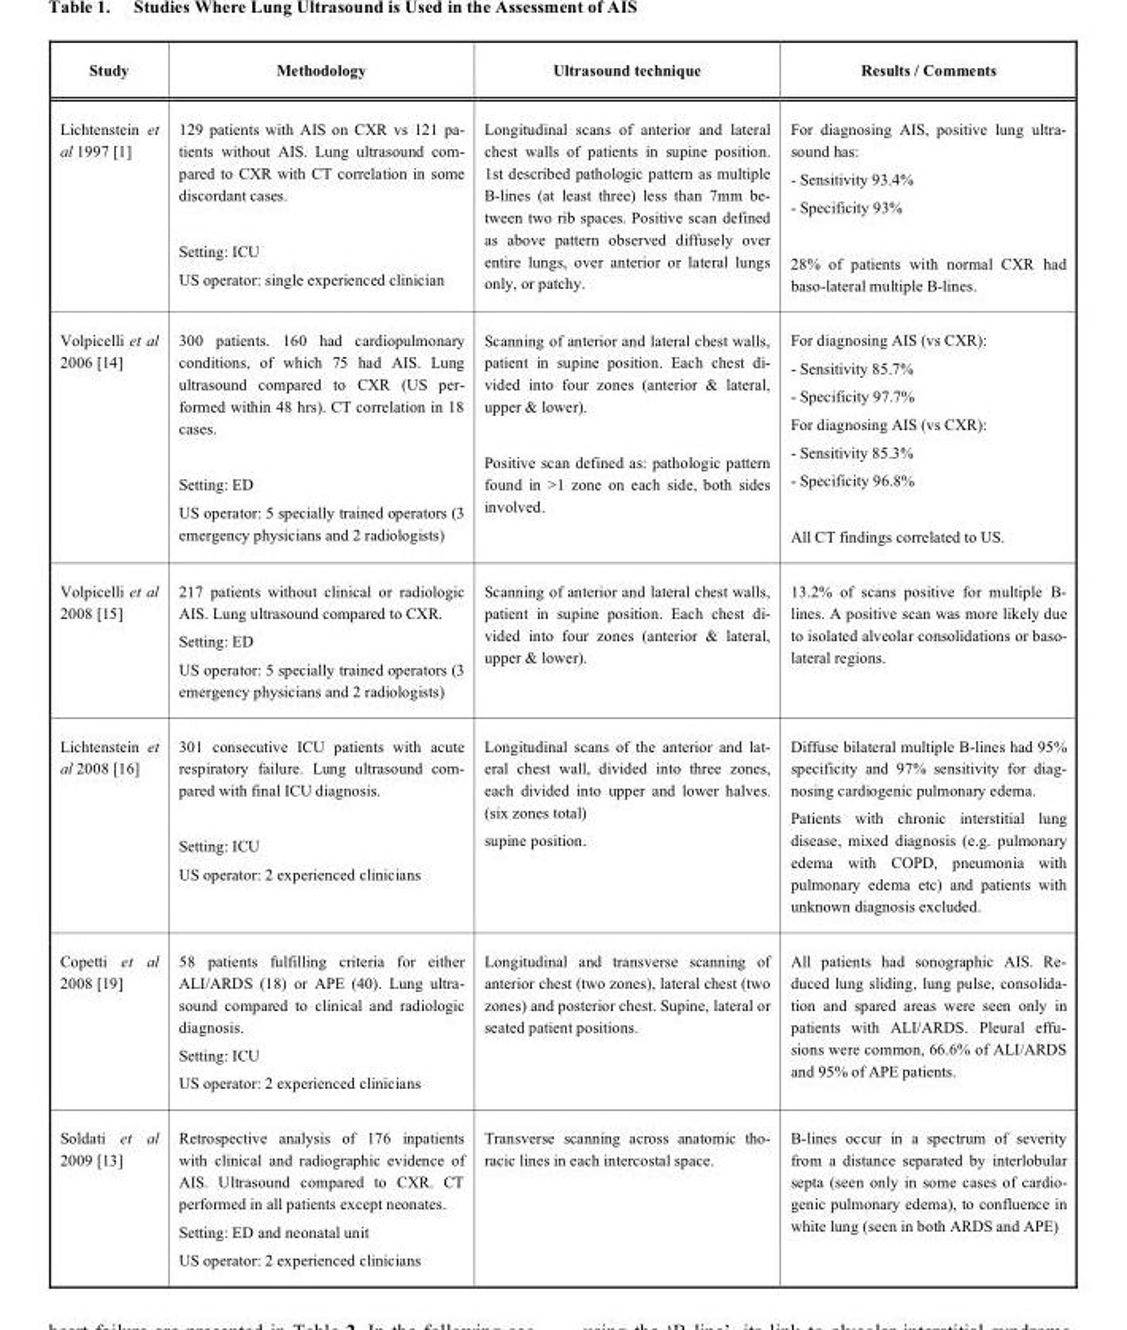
<table><thead><tr><td>Study</td><td>Methodology</td><td>Ultrasound technique</td><td>Results / Comments</td></tr></thead><tbody><tr><td>Lichtenstein et al 1997 [1]</td><td>129 patients with AIS on CXR vs 121 pa- tients without AIS. Lung ultrasound com- pared to CXR with CT correlation in some discordant cases. Setting: ICU US operator: single experienced clinician</td><td>Longitudinal scans of anterior and lateral chest walls of patients in supine position. 1st described pathologic pattern as multiple B-lines (at least three) less than 7mm be- tween two rib spaces. Positive scan defined as above pattern observed diffusely over entire lungs, over anterior or lateral lungs only, or patchy.</td><td>For diagnosing AIS, positive lung ultra- sound has: - Sensitivity 93.4% - Specificity 93% 28% of patients with normal CXR had baso-lateral multiple B-lines.</td></tr><tr><td>Volpicelli et al 2006 [14]</td><td>300 patients. 160 had cardiopulmonary conditions, of which 75 had AIS. Lung ultrasound compared to CXR (US per- formed within 48 hrs). CT correlation in 18 cases. Setting: ED US operator: 5 specially trained operators (3 emergency physicians and 2 radiologists)</td><td>Scanning of anterior and lateral chest walls, patient in supine position. Each chest di- vided into four zones (anterior &amp; lateral, upper &amp; lower). Positive scan defined as: pathologic pattern found in &gt;1 zone on each side, both sides involved.</td><td>For diagnosing AIS (vs CXR): - Sensitivity 85.7% - Specificity 97.7% For diagnosing AIS (vs CXR): - Sensitivity 85.3% - Specificity 96.8% All CT findings correlated to US.</td></tr><tr><td>Volpicelli et al 2008 [15]</td><td>217 patients without clinical or radiologic AIS. Lung ultrasound compared to CXR. Setting: ED US operator: 5 specially trained operators (3 emergency physicians and 2 radiologists)</td><td>Scanning of anterior and lateral chest walls, patient in supine position. Each chest di- vided into four zones (anterior &amp; lateral, upper &amp; lower).</td><td>13.2% of scans positive for multiple B- lines. A positive scan was more likely due to isolated alveolar consolidations or baso- lateral regions.</td></tr><tr><td>Lichtenstein et al 2008 [16]</td><td>301 consecutive ICU patients with acute respiratory failure. Lung ultrasound com- pared with final ICU diagnosis. Setting: ICU US operator: 2 experienced clinicians</td><td>Longitudinal scans of the anterior and lat- eral chest wall, divided into three zones, each divided into upper and lower halves. (six zones total) supine position.</td><td>Diffuse bilateral multiple B-lines had 95% specificity and 97% sensitivity for diag- nosing cardiogenic pulmonary edema. Patients with chronic interstitial lung disease, mixed diagnosis (e.g. pulmonary edema with COPD, pneumonia with pulmonary edema etc) and patients with unknown diagnosis excluded.</td></tr><tr><td>Copetti et al 2008 [19]</td><td>58 patients fulfilling criteria for either ALI/ARDS (18) or APE (40). Lung ultra- sound compared to clinical and radiologic diagnosis. Setting: ICU US operator: 2 experienced clinicians</td><td>Longitudinal and transverse scanning of anterior chest (two zones), lateral chest (two zones) and posterior chest. Supine, lateral or seated patient positions.</td><td>All patients had sonographic AIS. Re- duced lung sliding, lung pulse, consolida- tion and spared areas were seen only in patients with ALI/ARDS. Pleural effu- sions were common, 66.6% of ALI/ARDS and 95% of APE patients.</td></tr><tr><td>Soldati et al 2009 [13]</td><td>Retrospective analysis of 176 inpatients with clinical and radiographic evidence of AIS. Ultrasound compared to CXR. CT performed in all patients except neonates. Setting: ED and neonatal unit US operator: 2 experienced clinicians</td><td>Transverse scanning across anatomic tho- racic lines in each intercostal space.</td><td>B-lines occur in a spectrum of severity from a distance separated by interlobular septa (seen only in some cases of cardio- genic pulmonary edema), to confluence in white lung (seen in both ARDS and APE)</td></tr></tbody></table>